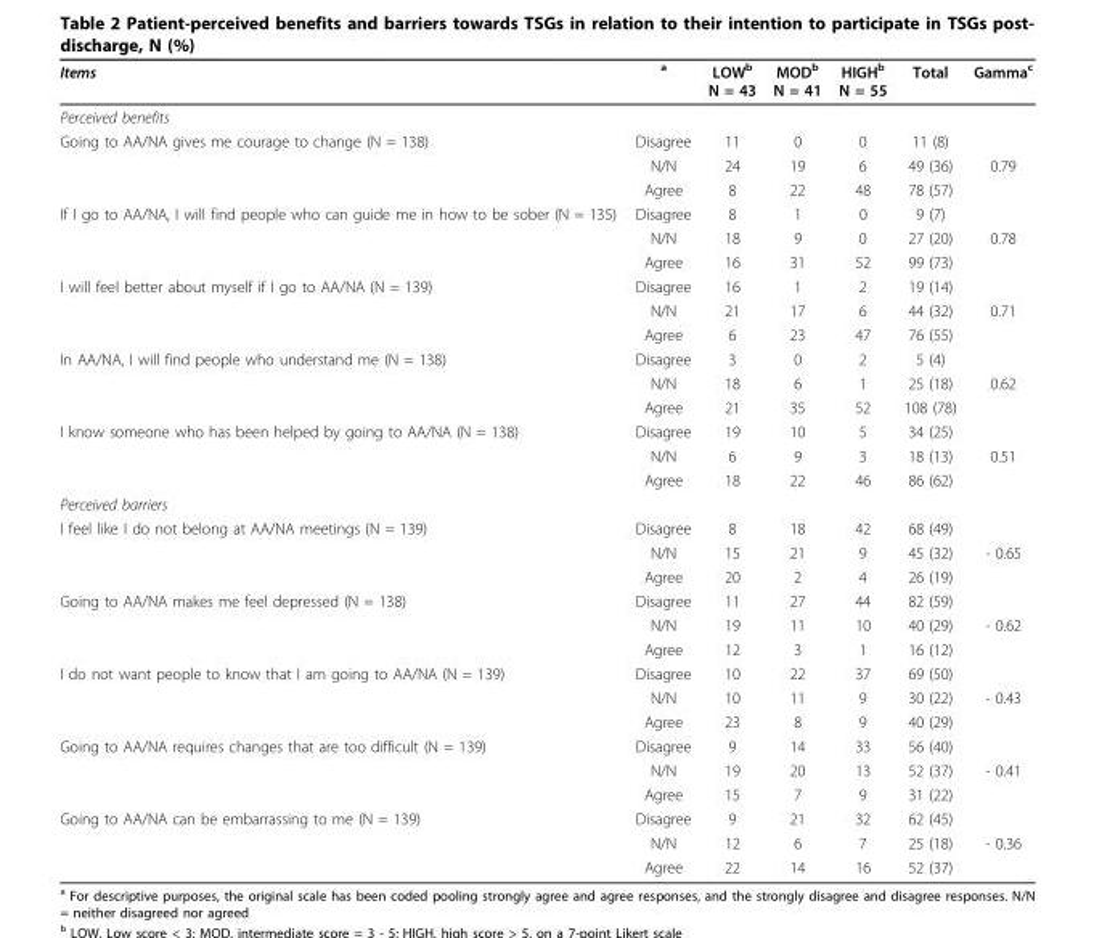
<table><thead><tr><td>Items</td><td><sup>a</sup></td><td>LOW<sup>b</sup> N = 43</td><td>MOD<sup>b</sup> N = 41</td><td>HIGH<sup>b</sup> N = 55</td><td>Total</td><td>Gamma<sup>c</sup></td></tr></thead><tbody><tr><td colspan="7">Perceived benefits</td></tr><tr><td rowspan="3">Going to AA/NA gives me courage to change (N = 138)</td><td>Disagree</td><td>11</td><td>0</td><td>0</td><td>11 (8)</td><td></td></tr><tr><td>N/N</td><td>24</td><td>19</td><td>6</td><td>49 (36)</td><td>0.79</td></tr><tr><td>Agree</td><td>8</td><td>22</td><td>48</td><td>78 (57)</td><td></td></tr><tr><td rowspan="3">If I go to AA/NA, I will find people who can guide me in how to be sober (N = 135)</td><td>Disagree</td><td>8</td><td>1</td><td>0</td><td>9 (7)</td><td></td></tr><tr><td>N/N</td><td>18</td><td>9</td><td>0</td><td>27 (20)</td><td>0.78</td></tr><tr><td>Agree</td><td>16</td><td>31</td><td>52</td><td>99 (73)</td><td></td></tr><tr><td rowspan="3">I will feel better about myself if I go to AA/NA (N = 139)</td><td>Disagree</td><td>16</td><td>1</td><td>2</td><td>19 (14)</td><td></td></tr><tr><td>N/N</td><td>21</td><td>17</td><td>6</td><td>44 (32)</td><td>0.71</td></tr><tr><td>Agree</td><td>6</td><td>23</td><td>47</td><td>76 (55)</td><td></td></tr><tr><td rowspan="3">In AA/NA, I will find people who understand me (N = 138)</td><td>Disagree</td><td>3</td><td>0</td><td>2</td><td>5 (4)</td><td></td></tr><tr><td>N/N</td><td>18</td><td>6</td><td>1</td><td>25 (18)</td><td>0.62</td></tr><tr><td>Agree</td><td>21</td><td>35</td><td>52</td><td>108 (78)</td><td></td></tr><tr><td rowspan="3">I know someone who has been helped by going to AA/NA (N = 138)</td><td>Disagree</td><td>19</td><td>10</td><td>5</td><td>34 (25)</td><td></td></tr><tr><td>N/N</td><td>6</td><td>9</td><td>3</td><td>18 (13)</td><td>0.51</td></tr><tr><td>Agree</td><td>18</td><td>22</td><td>46</td><td>86 (62)</td><td></td></tr><tr><td colspan="7">Perceived barriers</td></tr><tr><td rowspan="3">I feel like I do not belong at AA/NA meetings (N = 139)</td><td>Disagree</td><td>8</td><td>18</td><td>42</td><td>68 (49)</td><td></td></tr><tr><td>N/N</td><td>15</td><td>21</td><td>9</td><td>45 (32)</td><td>- 0.65</td></tr><tr><td>Agree</td><td>20</td><td>2</td><td>4</td><td>26 (19)</td><td></td></tr><tr><td rowspan="3">Going to AA/NA makes me feel depressed (N = 138)</td><td>Disagree</td><td>11</td><td>27</td><td>44</td><td>82 (59)</td><td></td></tr><tr><td>N/N</td><td>19</td><td>11</td><td>10</td><td>40 (29)</td><td>- 0.62</td></tr><tr><td>Agree</td><td>12</td><td>3</td><td>1</td><td>16 (12)</td><td></td></tr><tr><td rowspan="3">I do not want people to know that I am going to AA/NA (N = 139)</td><td>Disagree</td><td>10</td><td>22</td><td>37</td><td>69 (50)</td><td></td></tr><tr><td>N/N</td><td>10</td><td>11</td><td>9</td><td>30 (22)</td><td>- 0.43</td></tr><tr><td>Agree</td><td>23</td><td>8</td><td>9</td><td>40 (29)</td><td></td></tr><tr><td rowspan="3">Going to AA/NA requires changes that are too difficult (N = 139)</td><td>Disagree</td><td>9</td><td>14</td><td>33</td><td>56 (40)</td><td></td></tr><tr><td>N/N</td><td>19</td><td>20</td><td>13</td><td>52 (37)</td><td>- 0.41</td></tr><tr><td>Agree</td><td>15</td><td>7</td><td>9</td><td>31 (22)</td><td></td></tr><tr><td rowspan="3">Going to AA/NA can be embarrassing to me (N = 139)</td><td>Disagree</td><td>9</td><td>21</td><td>32</td><td>62 (45)</td><td></td></tr><tr><td>N/N</td><td>12</td><td>6</td><td>7</td><td>25 (18)</td><td>- 0.36</td></tr><tr><td>Agree</td><td>22</td><td>14</td><td>16</td><td>52 (37)</td><td></td></tr></tbody></table>